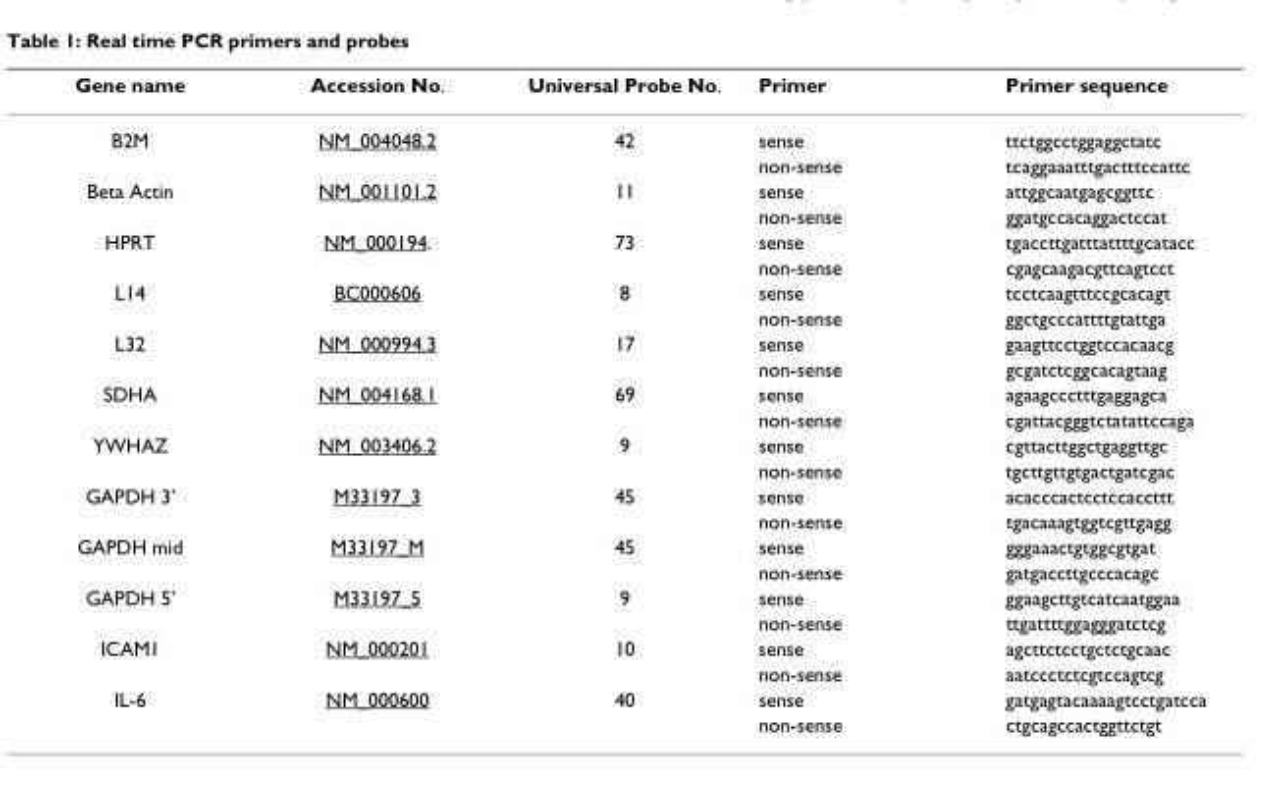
<table><thead><tr><td>Gene name</td><td>Accession No.</td><td>Universal Probe No.</td><td>Primer</td><td>Primer sequence</td></tr></thead><tbody><tr><td rowspan="2">B2M</td><td>NM_004048.2</td><td>42</td><td>sense</td><td>ttctggcctggaggctatc</td></tr><tr><td></td><td></td><td>non-sense</td><td>tcaggaaatttgactttccattc</td></tr><tr><td rowspan="2">Beta Actin</td><td>NM_001101.2</td><td>11</td><td>sense</td><td>attggcaatgagcggttc</td></tr><tr><td></td><td></td><td>non-sense</td><td>ggatgccacaggactccat</td></tr><tr><td rowspan="2">HPRT</td><td>NM_000194.</td><td>73</td><td>sense</td><td>tgaccttgatttattttgcatacc</td></tr><tr><td></td><td></td><td>non-sense</td><td>cgagcaagacgttcagtcct</td></tr><tr><td rowspan="2">L14</td><td>BC000606</td><td>8</td><td>sense</td><td>tcctcaagtttccgcacagt</td></tr><tr><td></td><td></td><td>non-sense</td><td>ggctgcccattttgtattga</td></tr><tr><td rowspan="2">L32</td><td>NM_000994.3</td><td>17</td><td>sense</td><td>gaagttcctggtccacaacg</td></tr><tr><td></td><td></td><td>non-sense</td><td>gcgatctcggcacagtaag</td></tr><tr><td rowspan="2">SDHA</td><td>NM_004168.1</td><td>69</td><td>sense</td><td>agaagccctttgaggagca</td></tr><tr><td></td><td></td><td>non-sense</td><td>cgattacgggtctatattccaga</td></tr><tr><td rowspan="2">YWHAZ</td><td>NM_003406.2</td><td>9</td><td>sense</td><td>cgttacttggctgaggttgc</td></tr><tr><td></td><td></td><td>non-sense</td><td>tgcttgttgtgactgatcgac</td></tr><tr><td rowspan="2">GAPDH 3&#x27;</td><td>M33197_3</td><td>45</td><td>sense</td><td>acacccactcctccaccttt</td></tr><tr><td></td><td></td><td>non-sense</td><td>tgacaaagtggtcgttgagg</td></tr><tr><td rowspan="2">GAPDH mid</td><td>M33197_M</td><td>45</td><td>sense</td><td>gggaaactgtggcgtgat</td></tr><tr><td></td><td></td><td>non-sense</td><td>gatgaccttgcccacagc</td></tr><tr><td rowspan="2">GAPDH 5&#x27;</td><td>M33197_5</td><td>9</td><td>sense</td><td>ggaagcttgtcatcaatggaa</td></tr><tr><td></td><td></td><td>non-sense</td><td>ttgattttggagggatctcg</td></tr><tr><td rowspan="2">ICAM1</td><td>NM_000201</td><td>10</td><td>sense</td><td>agcttctcctgctctgcaac</td></tr><tr><td></td><td></td><td>non-sense</td><td>aatccctctcgtccagtcg</td></tr><tr><td rowspan="2">IL-6</td><td>NM_000600</td><td>40</td><td>sense</td><td>gatgagtacaaaagtcctgatcca</td></tr><tr><td></td><td></td><td>non-sense</td><td>ctgcagccactggttctgt</td></tr></tbody></table>